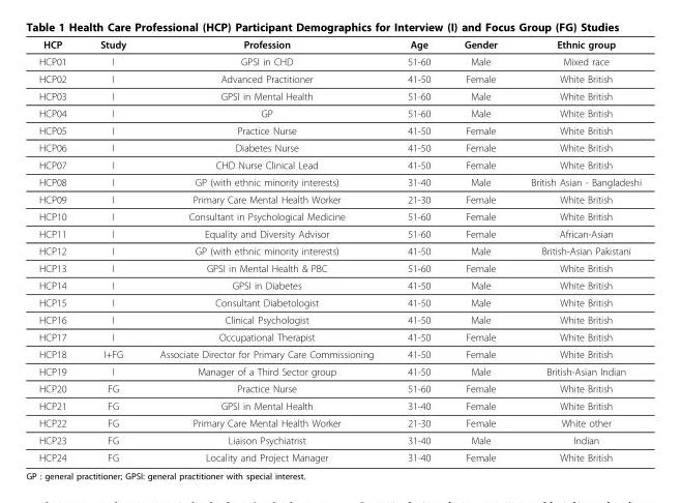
<table><thead><tr><td>HCP</td><td>Study</td><td>Profession</td><td>Age</td><td>Gender</td><td>Ethnic group</td></tr></thead><tbody><tr><td>HCP01</td><td>I</td><td>GPSI in CHD</td><td>51-60</td><td>Male</td><td>Mixed race</td></tr><tr><td>HCP02</td><td>I</td><td>Advanced Practitioner</td><td>41-50</td><td>Female</td><td>White British</td></tr><tr><td>HCP03</td><td>I</td><td>GPSI in Mental Health</td><td>51-60</td><td>Male</td><td>White British</td></tr><tr><td>HCP04</td><td>I</td><td>GP</td><td>51-60</td><td>Male</td><td>White British</td></tr><tr><td>HCP05</td><td>I</td><td>Practice Nurse</td><td>41-50</td><td>Female</td><td>White British</td></tr><tr><td>HCP06</td><td>I</td><td>Diabetes Nurse</td><td>41-50</td><td>Female</td><td>White British</td></tr><tr><td>HCP07</td><td>I</td><td>CHD Nurse Clinical Lead</td><td>41-50</td><td>Female</td><td>White British</td></tr><tr><td>HCP08</td><td>I</td><td>GP (with ethnic minority interests)</td><td>31-40</td><td>Male</td><td>British Asian - Bangladeshi</td></tr><tr><td>HCP09</td><td>I</td><td>Primary Care Mental Health Worker</td><td>21-30</td><td>Female</td><td>White British</td></tr><tr><td>HCP10</td><td>I</td><td>Consultant in Psychological Medicine</td><td>51-60</td><td>Female</td><td>White British</td></tr><tr><td>HCP11</td><td>I</td><td>Equality and Diversity Advisor</td><td>51-60</td><td>Female</td><td>African-Asian</td></tr><tr><td>HCP12</td><td>I</td><td>GP (with ethnic minority interests)</td><td>41-50</td><td>Male</td><td>British-Asian Pakistani</td></tr><tr><td>HCP13</td><td>I</td><td>GPSI in Mental Health &amp; PBC</td><td>51-60</td><td>Female</td><td>White British</td></tr><tr><td>HCP14</td><td>I</td><td>GPSI in Diabetes</td><td>41-50</td><td>Male</td><td>White British</td></tr><tr><td>HCP15</td><td>I</td><td>Consultant Diabetologist</td><td>41-50</td><td>Male</td><td>White British</td></tr><tr><td>HCP16</td><td>I</td><td>Clinical Psychologist</td><td>41-50</td><td>Male</td><td>White British</td></tr><tr><td>HCP17</td><td>I</td><td>Occupational Therapist</td><td>41-50</td><td>Female</td><td>White British</td></tr><tr><td>HCP18</td><td>I+FG</td><td>Associate Director for Primary Care Commissioning</td><td>41-50</td><td>Female</td><td>White British</td></tr><tr><td>HCP19</td><td>I</td><td>Manager of a Third Sector group</td><td>41-50</td><td>Male</td><td>British-Asian Indian</td></tr><tr><td>HCP20</td><td>FG</td><td>Practice Nurse</td><td>51-60</td><td>Female</td><td>White British</td></tr><tr><td>HCP21</td><td>FG</td><td>GPSI in Mental Health</td><td>31-40</td><td>Female</td><td>White British</td></tr><tr><td>HCP22</td><td>FG</td><td>Primary Care Mental Health Worker</td><td>21-30</td><td>Female</td><td>White other</td></tr><tr><td>HCP23</td><td>FG</td><td>Liaison Psychiatrist</td><td>31-40</td><td>Male</td><td>Indian</td></tr><tr><td>HCP24</td><td>FG</td><td>Locality and Project Manager</td><td>31-40</td><td>Female</td><td>White British</td></tr></tbody></table>